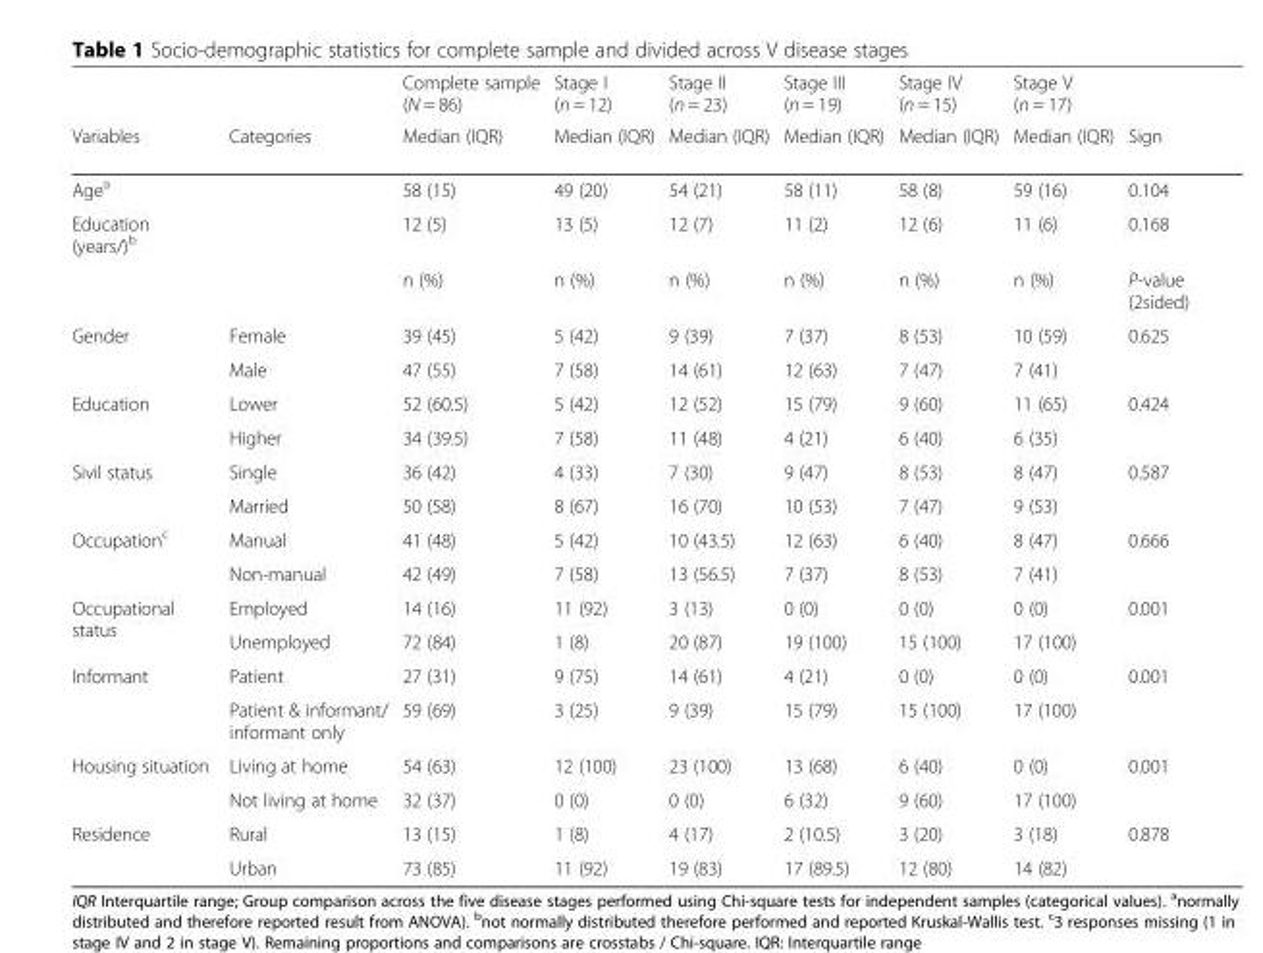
<table><thead><tr><td rowspan="2">Variables</td><td rowspan="2">Categories</td><td rowspan="2">Complete sample (N = 86) Median (IQR)</td><td rowspan="2">Stage I (n = 12) Median (IQR)</td><td rowspan="2">Stage II (n = 23) Median (IQR)</td><td rowspan="2">Stage III (n = 19) Median (IQR)</td><td rowspan="2">Stage IV (n = 15) Median (IQR)</td><td rowspan="2">Stage V (n = 17) Median (IQR)</td><td rowspan="2">Sign</td></tr><tr></tr></thead><tbody><tr><td>Age<sup>a</sup></td><td></td><td>58 (15)</td><td>49 (20)</td><td>54 (21)</td><td>58 (11)</td><td>58 (8)</td><td>59 (16)</td><td>0.104</td></tr><tr><td rowspan="2">Education (years/)<sup>b</sup></td><td></td><td>12 (5)</td><td>13 (5)</td><td>12 (7)</td><td>11 (2)</td><td>12 (6)</td><td>11 (6)</td><td>0.168</td></tr><tr><td></td><td>n (%)</td><td>n (%)</td><td>n (%)</td><td>n (%)</td><td>n (%)</td><td>n (%)</td><td>P-value (2sided)</td></tr><tr><td rowspan="2">Gender</td><td>Female</td><td>39 (45)</td><td>5 (42)</td><td>9 (39)</td><td>7 (37)</td><td>8 (53)</td><td>10 (59)</td><td rowspan="2">0.625</td></tr><tr><td>Male</td><td>47 (55)</td><td>7 (58)</td><td>14 (61)</td><td>12 (63)</td><td>7 (47)</td><td>7 (41)</td></tr><tr><td rowspan="2">Education</td><td>Lower</td><td>52 (60.5)</td><td>5 (42)</td><td>12 (52)</td><td>15 (79)</td><td>9 (60)</td><td>11 (65)</td><td rowspan="2">0.424</td></tr><tr><td>Higher</td><td>34 (39.5)</td><td>7 (58)</td><td>11 (48)</td><td>4 (21)</td><td>6 (40)</td><td>6 (35)</td></tr><tr><td rowspan="2">Sivil status</td><td>Single</td><td>36 (42)</td><td>4 (33)</td><td>7 (30)</td><td>9 (47)</td><td>8 (53)</td><td>8 (47)</td><td rowspan="2">0.587</td></tr><tr><td>Married</td><td>50 (58)</td><td>8 (67)</td><td>16 (70)</td><td>10 (53)</td><td>7 (47)</td><td>9 (53)</td></tr><tr><td rowspan="2">Occupation<sup>c</sup></td><td>Manual</td><td>41 (48)</td><td>5 (42)</td><td>10 (43.5)</td><td>12 (63)</td><td>6 (40)</td><td>8 (47)</td><td rowspan="2">0.666</td></tr><tr><td>Non-manual</td><td>42 (49)</td><td>7 (58)</td><td>13 (56.5)</td><td>7 (37)</td><td>8 (53)</td><td>7 (41)</td></tr><tr><td rowspan="2">Occupational status</td><td>Employed</td><td>14 (16)</td><td>11 (92)</td><td>3 (13)</td><td>0 (0)</td><td>0 (0)</td><td>0 (0)</td><td rowspan="2">0.001</td></tr><tr><td>Unemployed</td><td>72 (84)</td><td>1 (8)</td><td>20 (87)</td><td>19 (100)</td><td>15 (100)</td><td>17 (100)</td></tr><tr><td rowspan="2">Informant</td><td>Patient</td><td>27 (31)</td><td>9 (75)</td><td>14 (61)</td><td>4 (21)</td><td>0 (0)</td><td>0 (0)</td><td rowspan="2">0.001</td></tr><tr><td>Patient &amp; informant/ informant only</td><td>59 (69)</td><td>3 (25)</td><td>9 (39)</td><td>15 (79)</td><td>15 (100)</td><td>17 (100)</td></tr><tr><td rowspan="2">Housing situation</td><td>Living at home</td><td>54 (63)</td><td>12 (100)</td><td>23 (100)</td><td>13 (68)</td><td>6 (40)</td><td>0 (0)</td><td rowspan="2">0.001</td></tr><tr><td>Not living at home</td><td>32 (37)</td><td>0 (0)</td><td>0 (0)</td><td>6 (32)</td><td>9 (60)</td><td>17 (100)</td></tr><tr><td rowspan="2">Residence</td><td>Rural</td><td>13 (15)</td><td>1 (8)</td><td>4 (17)</td><td>2 (10.5)</td><td>3 (20)</td><td>3 (18)</td><td rowspan="2">0.878</td></tr><tr><td>Urban</td><td>73 (85)</td><td>11 (92)</td><td>19 (83)</td><td>17 (89.5)</td><td>12 (80)</td><td>14 (82)</td></tr></tbody></table>